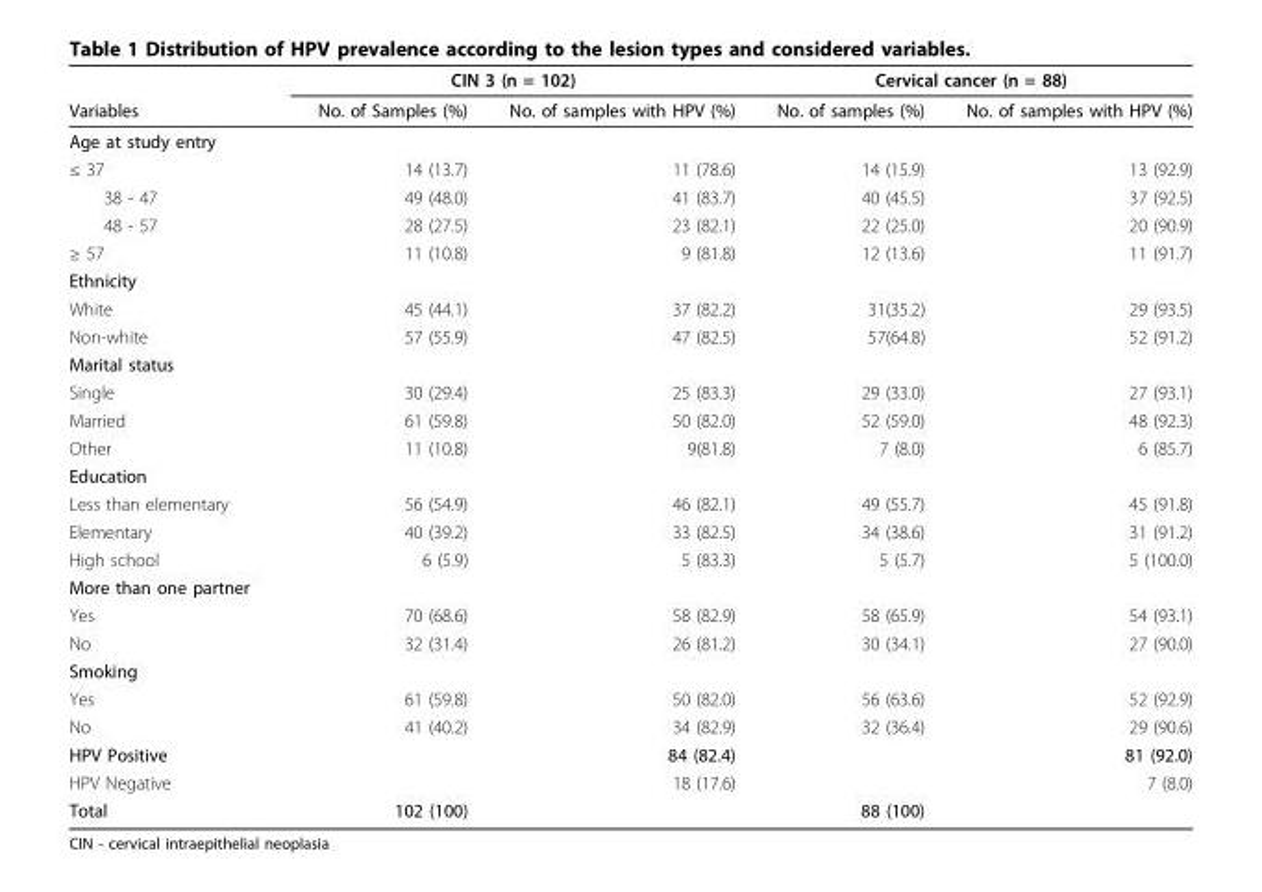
<table><thead><tr><td rowspan="2">Variables</td><td colspan="2">CIN 3 (n = 102)</td><td colspan="2">Cervical cancer (n = 88)</td></tr><tr><td>No. of Samples (%)</td><td>No. of samples with HPV (%)</td><td>No. of samples (%)</td><td>No. of samples with HPV (%)</td></tr></thead><tbody><tr><td colspan="5">Age at study entry</td></tr><tr><td>≤ 37</td><td>14 (13.7)</td><td>11 (78.6)</td><td>14 (15.9)</td><td>13 (92.9)</td></tr><tr><td>38 - 47</td><td>49 (48.0)</td><td>41 (83.7)</td><td>40 (45.5)</td><td>37 (92.5)</td></tr><tr><td>48 - 57</td><td>28 (27.5)</td><td>23 (82.1)</td><td>22 (25.0)</td><td>20 (90.9)</td></tr><tr><td>≥ 57</td><td>11 (10.8)</td><td>9 (81.8)</td><td>12 (13.6)</td><td>11 (91.7)</td></tr><tr><td colspan="5">Ethnicity</td></tr><tr><td>White</td><td>45 (44.1)</td><td>37 (82.2)</td><td>31(35.2)</td><td>29 (93.5)</td></tr><tr><td>Non-white</td><td>57 (55.9)</td><td>47 (82.5)</td><td>57(64.8)</td><td>52 (91.2)</td></tr><tr><td colspan="5">Marital status</td></tr><tr><td>Single</td><td>30 (29.4)</td><td>25 (83.3)</td><td>29 (33.0)</td><td>27 (93.1)</td></tr><tr><td>Married</td><td>61 (59.8)</td><td>50 (82.0)</td><td>52 (59.0)</td><td>48 (92.3)</td></tr><tr><td>Other</td><td>11 (10.8)</td><td>9(81.8)</td><td>7 (8.0)</td><td>6 (85.7)</td></tr><tr><td colspan="5">Education</td></tr><tr><td>Less than elementary</td><td>56 (54.9)</td><td>46 (82.1)</td><td>49 (55.7)</td><td>45 (91.8)</td></tr><tr><td>Elementary</td><td>40 (39.2)</td><td>33 (82.5)</td><td>34 (38.6)</td><td>31 (91.2)</td></tr><tr><td>High school</td><td>6 (5.9)</td><td>5 (83.3)</td><td>5 (5.7)</td><td>5 (100.0)</td></tr><tr><td colspan="5">More than one partner</td></tr><tr><td>Yes</td><td>70 (68.6)</td><td>58 (82.9)</td><td>58 (65.9)</td><td>54 (93.1)</td></tr><tr><td>No</td><td>32 (31.4)</td><td>26 (81.2)</td><td>30 (34.1)</td><td>27 (90.0)</td></tr><tr><td colspan="5">Smoking</td></tr><tr><td>Yes</td><td>61 (59.8)</td><td>50 (82.0)</td><td>56 (63.6)</td><td>52 (92.9)</td></tr><tr><td>No</td><td>41 (40.2)</td><td>34 (82.9)</td><td>32 (36.4)</td><td>29 (90.6)</td></tr><tr><td>HPV Positive</td><td></td><td>84 (82.4)</td><td></td><td>81 (92.0)</td></tr><tr><td>HPV Negative</td><td></td><td>18 (17.6)</td><td></td><td>7 (8.0)</td></tr><tr><td>Total</td><td>102 (100)</td><td></td><td>88 (100)</td><td></td></tr></tbody></table>